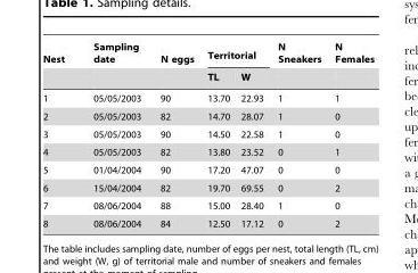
<table><thead><tr><td rowspan="2">Nest</td><td rowspan="2">Sampling date</td><td rowspan="2">N eggs</td><td colspan="2">Territorial</td><td rowspan="2">N Sneakers</td><td rowspan="2">N Females</td></tr><tr><td>TL</td><td>W</td></tr></thead><tbody><tr><td>1</td><td>05/05/2003</td><td>90</td><td>13.70</td><td>22.93</td><td>1</td><td>1</td></tr><tr><td>2</td><td>05/05/2003</td><td>82</td><td>14.70</td><td>28.07</td><td>1</td><td>0</td></tr><tr><td>3</td><td>05/05/2003</td><td>90</td><td>14.50</td><td>22.58</td><td>1</td><td>0</td></tr><tr><td>4</td><td>05/05/2003</td><td>82</td><td>13.80</td><td>23.52</td><td>0</td><td>1</td></tr><tr><td>5</td><td>01/04/2004</td><td>90</td><td>17.20</td><td>47.07</td><td>0</td><td>0</td></tr><tr><td>6</td><td>15/04/2004</td><td>82</td><td>19.70</td><td>69.55</td><td>0</td><td>2</td></tr><tr><td>7</td><td>08/06/2004</td><td>88</td><td>15.00</td><td>28.40</td><td>1</td><td>0</td></tr><tr><td>8</td><td>08/06/2004</td><td>84</td><td>12.50</td><td>17.12</td><td>0</td><td>2</td></tr></tbody></table>